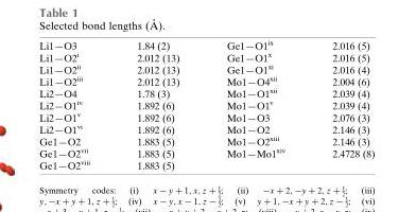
<table><tbody><tr><td>Li1—O3</td><td>1.84 (2)</td><td>Ge1—O1<sup>ix</sup></td><td>2.016 (5)</td></tr><tr><td>Li1—O2<sup>i</sup></td><td>2.012 (13)</td><td>Ge1—O1<sup>x</sup></td><td>2.016 (5)</td></tr><tr><td>Li1—O2<sup>ii</sup></td><td>2.012 (13)</td><td>Ge1—O1<sup>xi</sup></td><td>2.016 (4)</td></tr><tr><td>Li1—O2<sup>iii</sup></td><td>2.012 (13)</td><td>Mo1—O4<sup>xii</sup></td><td>2.004 (6)</td></tr><tr><td>Li2—O4</td><td>1.78 (3)</td><td>Mo1—O1<sup>xii</sup></td><td>2.039 (4)</td></tr><tr><td>Li2—O1<sup>iv</sup></td><td>1.892 (6)</td><td>Mo1—O1<sup>v</sup></td><td>2.039 (4)</td></tr><tr><td>Li2—O1<sup>v</sup></td><td>1.892 (6)</td><td>Mo1—O3</td><td>2.076 (3)</td></tr><tr><td>Li2—O1<sup>vi</sup></td><td>1.892 (6)</td><td>Mo1—O2</td><td>2.146 (3)</td></tr><tr><td>Ge1—O2</td><td>1.883 (5)</td><td>Mo1—O2<sup>xiii</sup></td><td>2.146 (3)</td></tr><tr><td>Ge1—O2<sup>vii</sup></td><td>1.883 (5)</td><td>Mo1—Mo1<sup>xiv</sup></td><td>2.4728 (8)</td></tr><tr><td>Ge1—O2<sup>viii</sup></td><td>1.883 (5)</td><td></td><td></td></tr></tbody></table>